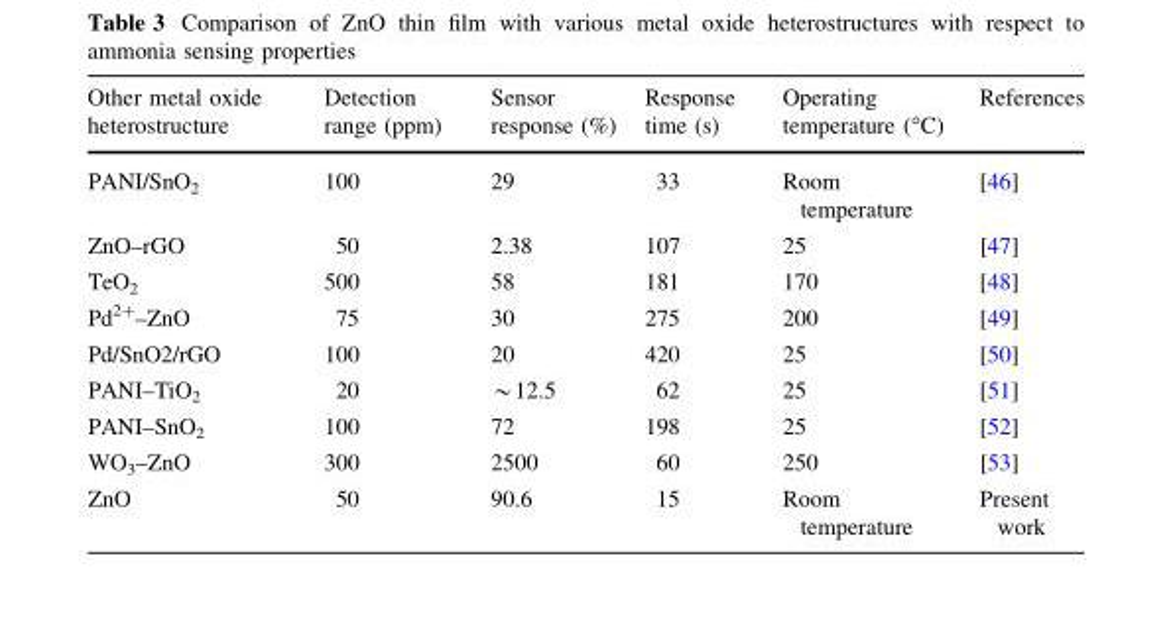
<table><thead><tr><td>Other metal oxide heterostructure</td><td>Detection range (ppm)</td><td>Sensor response (%)</td><td>Response time (s)</td><td>Operating temperature (°C)</td><td>References</td></tr></thead><tbody><tr><td>PANI/SnO<sub>2</sub></td><td>100</td><td>29</td><td>33</td><td>Room temperature</td><td>[46]</td></tr><tr><td>ZnO–rGO</td><td>50</td><td>2.38</td><td>107</td><td>25</td><td>[47]</td></tr><tr><td>TeO<sub>2</sub></td><td>500</td><td>58</td><td>181</td><td>170</td><td>[48]</td></tr><tr><td>Pd<sup>2+</sup>–ZnO</td><td>75</td><td>30</td><td>275</td><td>200</td><td>[49]</td></tr><tr><td>Pd/SnO2/rGO</td><td>100</td><td>20</td><td>420</td><td>25</td><td>[50]</td></tr><tr><td>PANI–TiO<sub>2</sub></td><td>20</td><td>*12.5</td><td>62</td><td>25</td><td>[51]</td></tr><tr><td>PANI–SnO<sub>2</sub></td><td>100</td><td>72</td><td>198</td><td>25</td><td>[52]</td></tr><tr><td>WO<sub>3</sub>–ZnO</td><td>300</td><td>2500</td><td>60</td><td>250</td><td>[53]</td></tr><tr><td>ZnO</td><td>50</td><td>90.6</td><td>15</td><td>Room temperature</td><td>Present work</td></tr></tbody></table>